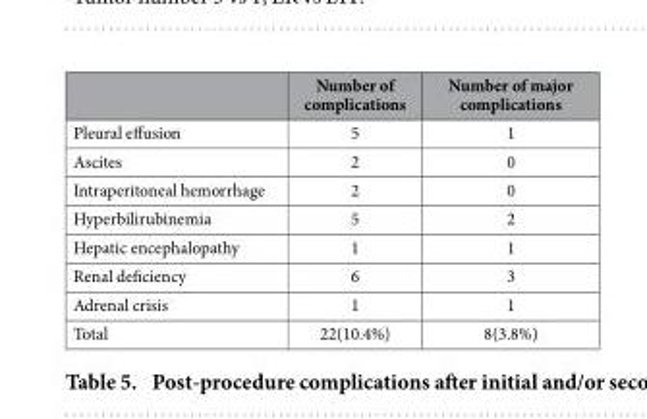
<table><thead><tr><td></td><td>Number of complications</td><td>Number of major complications</td></tr></thead><tbody><tr><td>Pleural effusion</td><td>5</td><td>1</td></tr><tr><td>Ascites</td><td>2</td><td>0</td></tr><tr><td>Intraperitoneal hemorrhage</td><td>2</td><td>0</td></tr><tr><td>Hyperbilirubinemia</td><td>5</td><td>2</td></tr><tr><td>Hepatic encephalopathy</td><td>1</td><td>1</td></tr><tr><td>Renal deficiency</td><td>6</td><td>3</td></tr><tr><td>Adrenal crisis</td><td>1</td><td>1</td></tr><tr><td>Total</td><td>22(10.4%)</td><td>8(3.8%)</td></tr></tbody></table>